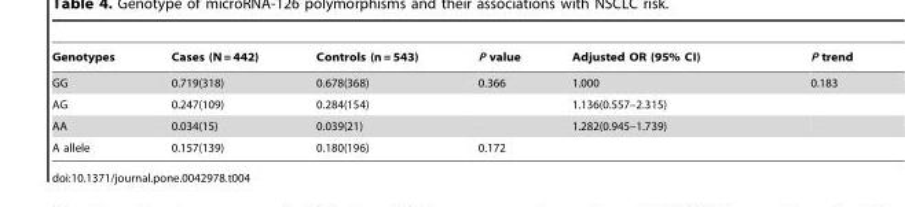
<table><thead><tr><td>Genotypes</td><td>Cases (N = 442)</td><td>Controls (n = 543)</td><td>P value</td><td>Adjusted OR (95% CI)</td><td>P trend</td></tr></thead><tbody><tr><td>GG</td><td>0.719(318)</td><td>0.678(368)</td><td>0.366</td><td>1.000</td><td>0.183</td></tr><tr><td>AG</td><td>0.247(109)</td><td>0.284(154)</td><td></td><td>1.136(0.557–2.315)</td><td></td></tr><tr><td>AA</td><td>0.034(15)</td><td>0.039(21)</td><td></td><td>1.282(0.945–1.739)</td><td></td></tr><tr><td>A allele</td><td>0.157(139)</td><td>0.180(196)</td><td>0.172</td><td></td><td></td></tr></tbody></table>